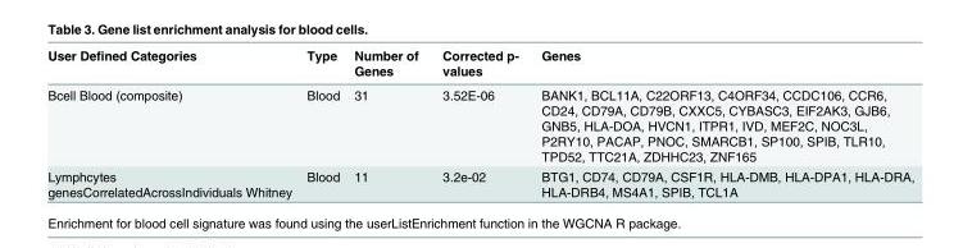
<table><thead><tr><td>User Defined Categories</td><td>Type</td><td>Number of Genes</td><td>Corrected p- values</td><td>Genes</td></tr></thead><tbody><tr><td>Bcell Blood (composite)</td><td>Blood</td><td>31</td><td>3.52E-06</td><td>BANK1, BCL11A, C22ORF13, C4ORF34, CCDC106, CCR6, CD24, CD79A, CD79B, CXXC5, CYBASC3, EIF2AK3, GJB6, GNB5, HLA-DOA, HVCN1, ITPR1, IVD, MEF2C, NOC3L, P2RY10, PACAP, PNOC, SMARCB1, SP100, SPIB, TLR10, TPD52, TTC21A, ZDHHC23, ZNF165</td></tr><tr><td>Lymphcytes genesCorrelatedAcrossIndividuals Whitney</td><td>Blood</td><td>11</td><td>3.2e-02</td><td>BTG1, CD74, CD79A, CSF1R, HLA-DMB, HLA-DPA1, HLA-DRA, HLA-DRB4, MS4A1, SPIB, TCL1A</td></tr></tbody></table>